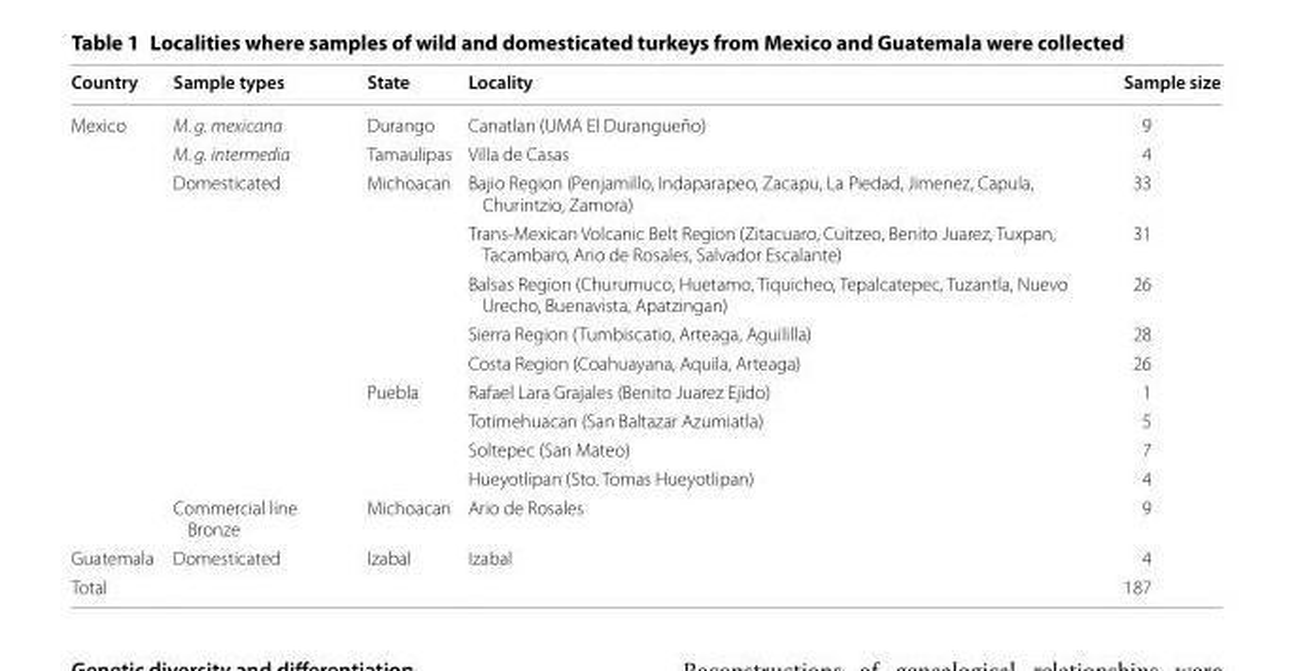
<table><thead><tr><td>Country</td><td>Sample types</td><td>State</td><td>Locality</td><td>Sample size</td></tr></thead><tbody><tr><td rowspan="12">Mexico</td><td>M. g. mexicana</td><td>Durango</td><td>Canatlan (UMA El Durangueño)</td><td>9</td></tr><tr><td>M. g. intermedia</td><td>Tamaulipas</td><td>Villa de Casas</td><td>4</td></tr><tr><td rowspan="9">Domesticated</td><td rowspan="5">Michoacan</td><td>Bajio Region (Penjamillo, Indaparapeo, Zacapu, La Piedad, Jimenez, Capula, Churintzio, Zamora)</td><td>33</td></tr><tr><td>Trans‑Mexican Volcanic Belt Region (Zitacuaro, Cuitzeo, Benito Juarez, Tuxpan, Tacambaro, Ario de Rosales, Salvador Escalante)</td><td>31</td></tr><tr><td>Balsas Region (Churumuco, Huetamo, Tiquicheo, Tepalcatepec, Tuzantla, Nuevo Urecho, Buenavista, Apatzingan)</td><td>26</td></tr><tr><td>Sierra Region (Tumbiscatio, Arteaga, Aguililla)</td><td>28</td></tr><tr><td>Costa Region (Coahuayana, Aquila, Arteaga)</td><td>26</td></tr><tr><td rowspan="4">Puebla</td><td>Rafael Lara Grajales (Benito Juarez Ejido)</td><td>1</td></tr><tr><td>Totimehuacan (San Baltazar Azumiatla)</td><td>5</td></tr><tr><td>Soltepec (San Mateo)</td><td>7</td></tr><tr><td>Hueyotlipan (Sto. Tomas Hueyotlipan)</td><td>4</td></tr><tr><td>Commercial line Bronze</td><td>Michoacan</td><td>Ario de Rosales</td><td>9</td></tr><tr><td>Guatemala</td><td>Domesticated</td><td>Izabal</td><td>Izabal</td><td>4</td></tr><tr><td>Total</td><td></td><td></td><td></td><td>187</td></tr></tbody></table>